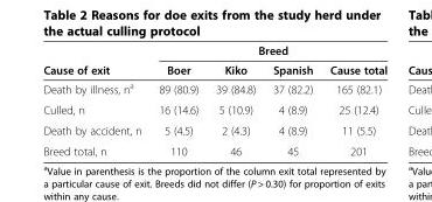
<table><thead><tr><td rowspan="2">Cause of exit</td><td colspan="4">Breed</td></tr><tr><td>Boer</td><td>Kiko</td><td>Spanish</td><td>Cause total</td></tr></thead><tbody><tr><td>Death by illness, n<sup>a</sup></td><td>89 (80.9)</td><td>39 (84.8)</td><td>37 (82.2)</td><td>165 (82.1)</td></tr><tr><td>Culled, n</td><td>16 (14.6)</td><td>5 (10.9)</td><td>4 (8.9)</td><td>25 (12.4)</td></tr><tr><td>Death by accident, n</td><td>5 (4.5)</td><td>2 (4.3)</td><td>4 (8.9)</td><td>11 (5.5)</td></tr><tr><td>Breed total, n</td><td>110</td><td>46</td><td>45</td><td>201</td></tr></tbody></table>